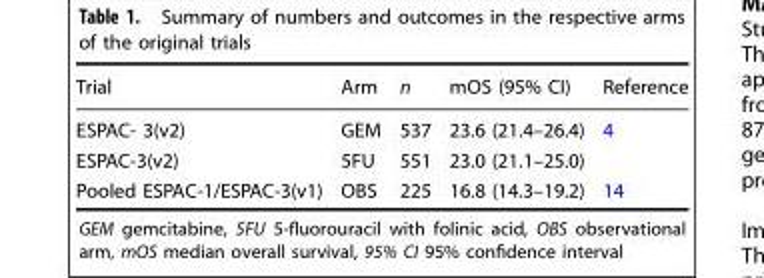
<table><thead><tr><td>Trial</td><td>Arm</td><td>n</td><td>mOS (95% CI)</td><td>Reference</td></tr></thead><tbody><tr><td>ESPAC- 3(v2)</td><td>GEM</td><td>537</td><td>23.6 (21.4–26.4)</td><td rowspan="2">4</td></tr><tr><td>ESPAC-3(v2)</td><td>5FU</td><td>551</td><td>23.0 (21.1–25.0)</td></tr><tr><td>Pooled ESPAC-1/ESPAC-3(v1)</td><td>OBS</td><td>225</td><td>16.8 (14.3–19.2)</td><td>14</td></tr></tbody></table>